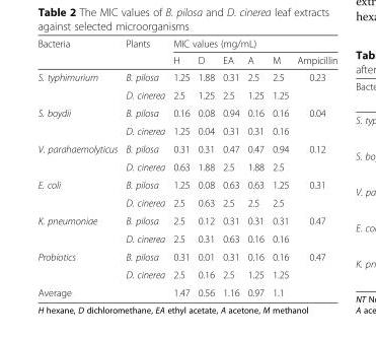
<table><thead><tr><td rowspan="2">Bacteria</td><td rowspan="2">Plants</td><td colspan="6">MIC values (mg/mL)</td></tr><tr><td>H</td><td>D</td><td>EA</td><td>A</td><td>M</td><td>Ampicillin</td></tr></thead><tbody><tr><td rowspan="2">S. typhimurium</td><td>B. pilosa</td><td>1.25</td><td>1.88</td><td>0.31</td><td>2.5</td><td>2.5</td><td rowspan="2">0.23</td></tr><tr><td>D. cinerea</td><td>2.5</td><td>1.25</td><td>2.5</td><td>1.25</td><td>1.25</td></tr><tr><td rowspan="2">S. boydii</td><td>B. pilosa</td><td>0.16</td><td>0.08</td><td>0.94</td><td>0.16</td><td>0.16</td><td rowspan="2">0.04</td></tr><tr><td>D. cinerea</td><td>1.25</td><td>0.04</td><td>0.31</td><td>0.31</td><td>0.16</td></tr><tr><td rowspan="2">V. parahaemolyticus</td><td>B. pilosa</td><td>0.31</td><td>0.31</td><td>0.47</td><td>0.47</td><td>0.94</td><td rowspan="2">0.12</td></tr><tr><td>D. cinerea</td><td>0.63</td><td>1.88</td><td>2.5</td><td>1.88</td><td>2.5</td></tr><tr><td rowspan="2">E. coli</td><td>B. pilosa</td><td>1.25</td><td>0.08</td><td>0.63</td><td>0.63</td><td>1.25</td><td rowspan="2">0.31</td></tr><tr><td>D. cinerea</td><td>2.5</td><td>0.63</td><td>2.5</td><td>2.5</td><td>2.5</td></tr><tr><td rowspan="2">K. pneumoniae</td><td>B. pilosa</td><td>2.5</td><td>0.12</td><td>0.31</td><td>0.31</td><td>0.31</td><td rowspan="2">0.47</td></tr><tr><td>D. cinerea</td><td>2.5</td><td>0.31</td><td>0.63</td><td>0.16</td><td>0.16</td></tr><tr><td rowspan="2">Probiotics</td><td>B. pilosa</td><td>0.31</td><td>0.01</td><td>0.31</td><td>0.16</td><td>0.16</td><td rowspan="2">0.47</td></tr><tr><td>D. cinerea</td><td>2.5</td><td>0.16</td><td>2.5</td><td>1.25</td><td>1.25</td></tr><tr><td>Average</td><td></td><td>1.47</td><td>0.56</td><td>1.16</td><td>0.97</td><td>1.1</td><td></td></tr></tbody></table>